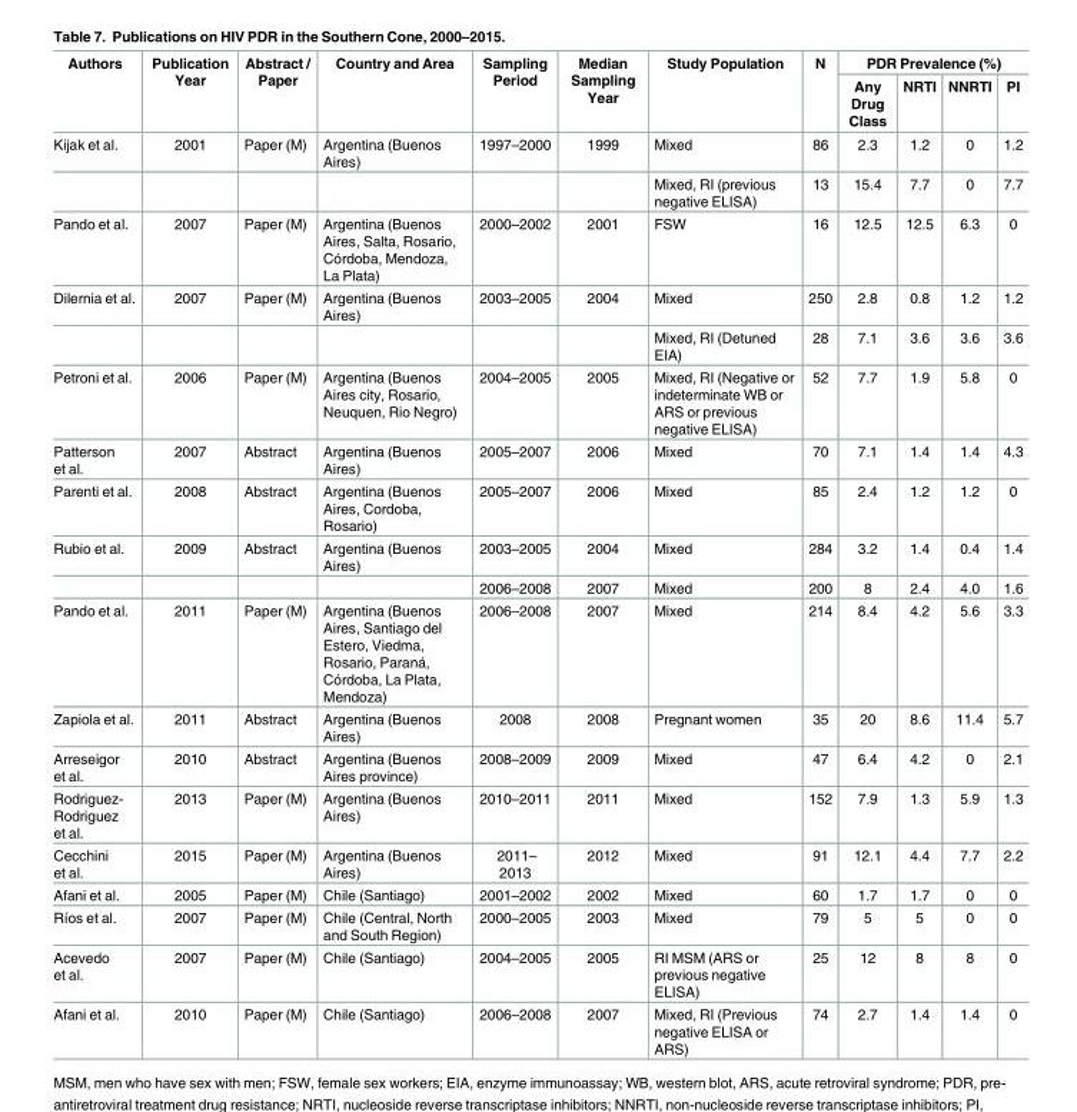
<table><thead><tr><td rowspan="2">Authors</td><td rowspan="2">Publication Year</td><td rowspan="2">Abstract / Paper</td><td rowspan="2">Country and Area</td><td rowspan="2">Sampling Period</td><td rowspan="2">Median Sampling Year</td><td rowspan="2">Study Population</td><td rowspan="2">N</td><td colspan="4">PDR Prevalence (%)</td></tr><tr><td>Any Drug Class</td><td>NRTI</td><td>NNRTI</td><td>PI</td></tr></thead><tbody><tr><td rowspan="2">Kijak et al.</td><td>2001</td><td>Paper (M)</td><td>Argentina (Buenos Aires)</td><td>1997–2000</td><td>1999</td><td>Mixed</td><td>86</td><td>2.3</td><td>1.2</td><td>0</td><td>1.2</td></tr><tr><td></td><td></td><td></td><td></td><td></td><td>Mixed, RI (previous negative ELISA)</td><td>13</td><td>15.4</td><td>7.7</td><td>0</td><td>7.7</td></tr><tr><td>Pando et al.</td><td>2007</td><td>Paper (M)</td><td>Argentina (Buenos Aires, Salta, Rosario, Córdoba, Mendoza, La Plata)</td><td>2000–2002</td><td>2001</td><td>FSW</td><td>16</td><td>12.5</td><td>12.5</td><td>6.3</td><td>0</td></tr><tr><td rowspan="2">Dilernia et al.</td><td>2007</td><td>Paper (M)</td><td>Argentina (Buenos Aires)</td><td>2003–2005</td><td>2004</td><td>Mixed</td><td>250</td><td>2.8</td><td>0.8</td><td>1.2</td><td>1.2</td></tr><tr><td></td><td></td><td></td><td></td><td></td><td>Mixed, RI (Detuned EIA)</td><td>28</td><td>7.1</td><td>3.6</td><td>3.6</td><td>3.6</td></tr><tr><td>Petroni et al.</td><td>2006</td><td>Paper (M)</td><td>Argentina (Buenos Aires city, Rosario, Neuquen, Rio Negro)</td><td>2004–2005</td><td>2005</td><td>Mixed, RI (Negative or indeterminate WB or ARS or previous negative ELISA)</td><td>52</td><td>7.7</td><td>1.9</td><td>5.8</td><td>0</td></tr><tr><td>Patterson et al.</td><td>2007</td><td>Abstract</td><td>Argentina (Buenos Aires)</td><td>2005–2007</td><td>2006</td><td>Mixed</td><td>70</td><td>7.1</td><td>1.4</td><td>1.4</td><td>4.3</td></tr><tr><td>Parenti et al.</td><td>2008</td><td>Abstract</td><td>Argentina (Buenos Aires, Cordoba, Rosario)</td><td>2005–2007</td><td>2006</td><td>Mixed</td><td>85</td><td>2.4</td><td>1.2</td><td>1.2</td><td>0</td></tr><tr><td rowspan="2">Rubio et al.</td><td>2009</td><td>Abstract</td><td>Argentina (Buenos Aires)</td><td>2003–2005</td><td>2004</td><td>Mixed</td><td>284</td><td>3.2</td><td>1.4</td><td>0.4</td><td>1.4</td></tr><tr><td></td><td></td><td></td><td>2006–2008</td><td>2007</td><td>Mixed</td><td>200</td><td>8</td><td>2.4</td><td>4.0</td><td>1.6</td></tr><tr><td>Pando et al.</td><td>2011</td><td>Paper (M)</td><td>Argentina (Buenos Aires, Santiago del Estero, Viedma, Rosario, Paraná, Córdoba, La Plata, Mendoza)</td><td>2006–2008</td><td>2007</td><td>Mixed</td><td>214</td><td>8.4</td><td>4.2</td><td>5.6</td><td>3.3</td></tr><tr><td>Zapiola et al.</td><td>2011</td><td>Abstract</td><td>Argentina (Buenos Aires)</td><td>2008</td><td>2008</td><td>Pregnant women</td><td>35</td><td>20</td><td>8.6</td><td>11.4</td><td>5.7</td></tr><tr><td>Arreseigor et al.</td><td>2010</td><td>Abstract</td><td>Argentina (Buenos Aires province)</td><td>2008–2009</td><td>2009</td><td>Mixed</td><td>47</td><td>6.4</td><td>4.2</td><td>0</td><td>2.1</td></tr><tr><td>Rodriguez- Rodriguez et al.</td><td>2013</td><td>Paper (M)</td><td>Argentina (Buenos Aires)</td><td>2010–2011</td><td>2011</td><td>Mixed</td><td>152</td><td>7.9</td><td>1.3</td><td>5.9</td><td>1.3</td></tr><tr><td>Cecchini et al.</td><td>2015</td><td>Paper (M)</td><td>Argentina (Buenos Aires)</td><td>2011– 2013</td><td>2012</td><td>Mixed</td><td>91</td><td>12.1</td><td>4.4</td><td>7.7</td><td>2.2</td></tr><tr><td>Afani et al.</td><td>2005</td><td>Paper (M)</td><td>Chile (Santiago)</td><td>2001–2002</td><td>2002</td><td>Mixed</td><td>60</td><td>1.7</td><td>1.7</td><td>0</td><td>0</td></tr><tr><td>Ríos et al.</td><td>2007</td><td>Paper (M)</td><td>Chile (Central, North and South Region)</td><td>2000–2005</td><td>2003</td><td>Mixed</td><td>79</td><td>5</td><td>5</td><td>0</td><td>0</td></tr><tr><td>Acevedo et al.</td><td>2007</td><td>Paper (M)</td><td>Chile (Santiago)</td><td>2004–2005</td><td>2005</td><td>RI MSM (ARS or previous negative ELISA)</td><td>25</td><td>12</td><td>8</td><td>8</td><td>0</td></tr><tr><td>Afani et al.</td><td>2010</td><td>Paper (M)</td><td>Chile (Santiago)</td><td>2006–2008</td><td>2007</td><td>Mixed, RI (Previous negative ELISA or ARS)</td><td>74</td><td>2.7</td><td>1.4</td><td>1.4</td><td>0</td></tr></tbody></table>